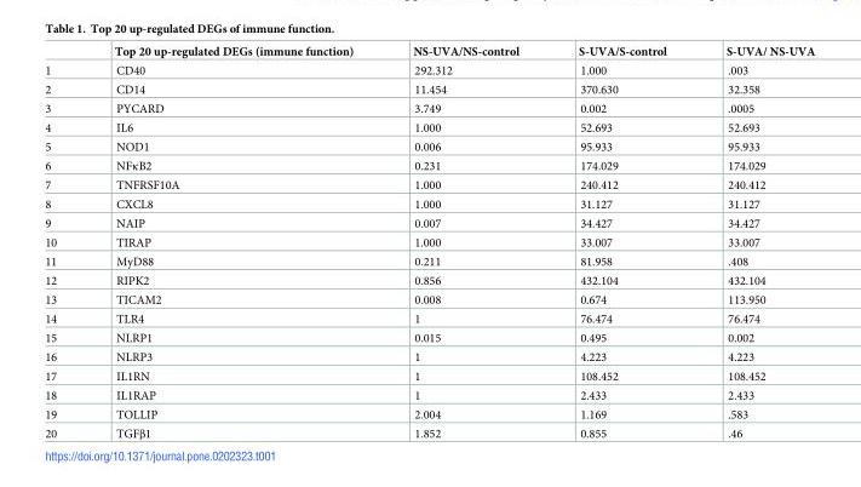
<table><thead><tr><td></td><td>Top 20 up-regulated DEGs (immune function)</td><td>NS-UVA/NS-control</td><td>S-UVA/S-control</td><td>S-UVA/ NS-UVA</td></tr></thead><tbody><tr><td>1</td><td>CD40</td><td>292.312</td><td>1.000</td><td>.003</td></tr><tr><td>2</td><td>CD14</td><td>11.454</td><td>370.630</td><td>32.358</td></tr><tr><td>3</td><td>PYCARD</td><td>3.749</td><td>0.002</td><td>.0005</td></tr><tr><td>4</td><td>IL6</td><td>1.000</td><td>52.693</td><td>52.693</td></tr><tr><td>5</td><td>NOD1</td><td>0.006</td><td>95.933</td><td>95.933</td></tr><tr><td>6</td><td>NFκB2</td><td>0.231</td><td>174.029</td><td>174.029</td></tr><tr><td>7</td><td>TNFRSF10A</td><td>1.000</td><td>240.412</td><td>240.412</td></tr><tr><td>8</td><td>CXCL8</td><td>1.000</td><td>31.127</td><td>31.127</td></tr><tr><td>9</td><td>NAIP</td><td>0.007</td><td>34.427</td><td>34.427</td></tr><tr><td>10</td><td>TIRAP</td><td>1.000</td><td>33.007</td><td>33.007</td></tr><tr><td>11</td><td>MyD88</td><td>0.211</td><td>81.958</td><td>.408</td></tr><tr><td>12</td><td>RIPK2</td><td>0.856</td><td>432.104</td><td>432.104</td></tr><tr><td>13</td><td>TICAM2</td><td>0.008</td><td>0.674</td><td>113.950</td></tr><tr><td>14</td><td>TLR4</td><td>1</td><td>76.474</td><td>76.474</td></tr><tr><td>15</td><td>NLRP1</td><td>0.015</td><td>0.495</td><td>0.002</td></tr><tr><td>16</td><td>NLRP3</td><td>1</td><td>4.223</td><td>4.223</td></tr><tr><td>17</td><td>IL1RN</td><td>1</td><td>108.452</td><td>108.452</td></tr><tr><td>18</td><td>IL1RAP</td><td>1</td><td>2.433</td><td>2.433</td></tr><tr><td>19</td><td>TOLLIP</td><td>2.004</td><td>1.169</td><td>.583</td></tr><tr><td>20</td><td>TGFβ1</td><td>1.852</td><td>0.855</td><td>.46</td></tr></tbody></table>